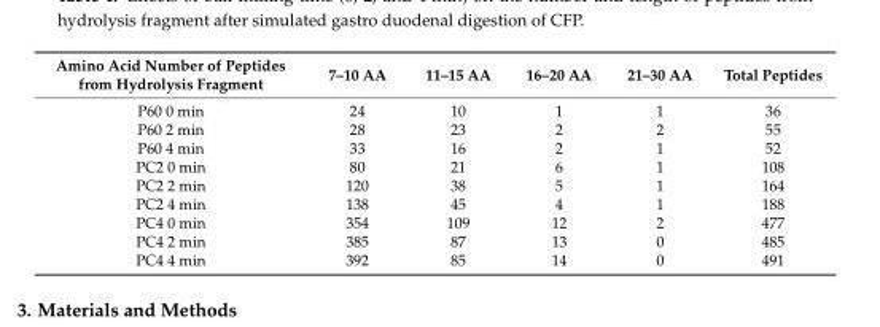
<table><thead><tr><td>Amino Acid Number of Peptides from Hydrolysis Fragment</td><td>7–10 AA</td><td>11–15 AA</td><td>16–20 AA</td><td>21–30 AA</td><td>Total Peptides</td></tr></thead><tbody><tr><td>P60 0 min</td><td>24</td><td>10</td><td>1</td><td>1</td><td>36</td></tr><tr><td>P60 2 min</td><td>28</td><td>23</td><td>2</td><td>2</td><td>55</td></tr><tr><td>P60 4 min</td><td>33</td><td>16</td><td>2</td><td>1</td><td>52</td></tr><tr><td>PC2 0 min</td><td>80</td><td>21</td><td>6</td><td>1</td><td>108</td></tr><tr><td>PC2 2 min</td><td>120</td><td>38</td><td>5</td><td>1</td><td>164</td></tr><tr><td>PC2 4 min</td><td>138</td><td>45</td><td>4</td><td>1</td><td>188</td></tr><tr><td>PC4 0 min</td><td>354</td><td>109</td><td>12</td><td>2</td><td>477</td></tr><tr><td>PC4 2 min</td><td>385</td><td>87</td><td>13</td><td>0</td><td>485</td></tr><tr><td>PC4 4 min</td><td>392</td><td>85</td><td>14</td><td>0</td><td>491</td></tr></tbody></table>